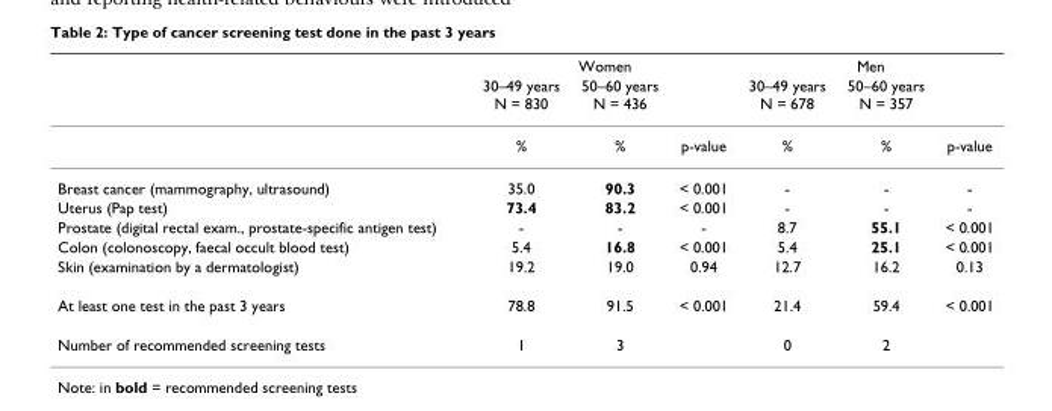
<table><thead><tr><td rowspan="2"></td><td colspan="3">Women</td><td colspan="3">Men</td></tr><tr><td>30–49 years N = 830</td><td>50–60 years N = 436</td><td></td><td>30–49 years N = 678</td><td>50–60 years N = 357</td><td></td></tr></thead><tbody><tr><td></td><td>%</td><td>%</td><td>p-value</td><td>%</td><td>%</td><td>p-value</td></tr><tr><td>Breast cancer (mammography, ultrasound)</td><td>35.0</td><td>90.3</td><td>&lt; 0.001</td><td>-</td><td>-</td><td>-</td></tr><tr><td>Uterus (Pap test)</td><td>73.4</td><td>83.2</td><td>&lt; 0.001</td><td>-</td><td>-</td><td>-</td></tr><tr><td>Prostate (digital rectal exam., prostate-specific antigen test)</td><td>-</td><td>-</td><td>-</td><td>8.7</td><td>55.1</td><td>&lt; 0.001</td></tr><tr><td>Colon (colonoscopy, faecal occult blood test)</td><td>5.4</td><td>16.8</td><td>&lt; 0.001</td><td>5.4</td><td>25.1</td><td>&lt; 0.001</td></tr><tr><td>Skin (examination by a dermatologist)</td><td>19.2</td><td>19.0</td><td>0.94</td><td>12.7</td><td>16.2</td><td>0.13</td></tr><tr><td>At least one test in the past 3 years</td><td>78.8</td><td>91.5</td><td>&lt; 0.001</td><td>21.4</td><td>59.4</td><td>&lt; 0.001</td></tr><tr><td>Number of recommended screening tests</td><td>1</td><td>3</td><td></td><td>0</td><td>2</td><td></td></tr></tbody></table>